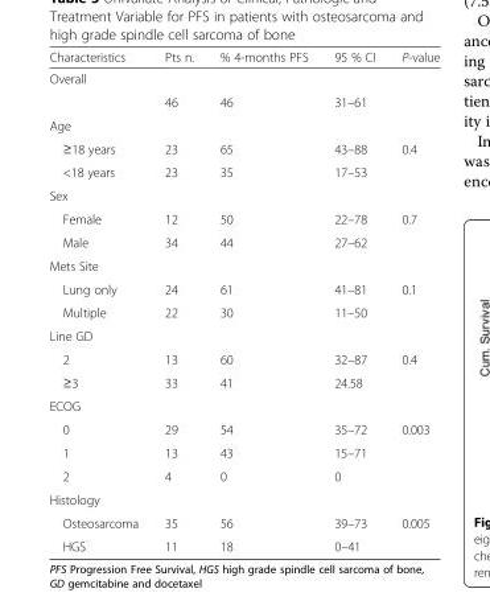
<table><thead><tr><td>Characteristics</td><td>Pts n.</td><td>% 4-months PFS</td><td>95 % CI</td><td>P-value</td></tr></thead><tbody><tr><td colspan="5">Overall</td></tr><tr><td></td><td>46</td><td>46</td><td>31–61</td><td></td></tr><tr><td colspan="5">Age</td></tr><tr><td>≥18 years</td><td>23</td><td>65</td><td>43–88</td><td>0.4</td></tr><tr><td>&lt;18 years</td><td>23</td><td>35</td><td>17–53</td><td></td></tr><tr><td colspan="5">Sex</td></tr><tr><td>Female</td><td>12</td><td>50</td><td>22–78</td><td>0.7</td></tr><tr><td>Male</td><td>34</td><td>44</td><td>27–62</td><td></td></tr><tr><td colspan="5">Mets Site</td></tr><tr><td>Lung only</td><td>24</td><td>61</td><td>41–81</td><td>0.1</td></tr><tr><td>Multiple</td><td>22</td><td>30</td><td>11–50</td><td></td></tr><tr><td colspan="5">Line GD</td></tr><tr><td>2</td><td>13</td><td>60</td><td>32–87</td><td>0.4</td></tr><tr><td>≥3</td><td>33</td><td>41</td><td>24.58</td><td></td></tr><tr><td colspan="5">ECOG</td></tr><tr><td>0</td><td>29</td><td>54</td><td>35–72</td><td>0.003</td></tr><tr><td>1</td><td>13</td><td>43</td><td>15–71</td><td></td></tr><tr><td>2</td><td>4</td><td>0</td><td>0</td><td></td></tr><tr><td colspan="5">Histology</td></tr><tr><td>Osteosarcoma</td><td>35</td><td>56</td><td>39–73</td><td>0.005</td></tr><tr><td>HGS</td><td>11</td><td>18</td><td>0–41</td><td></td></tr></tbody></table>